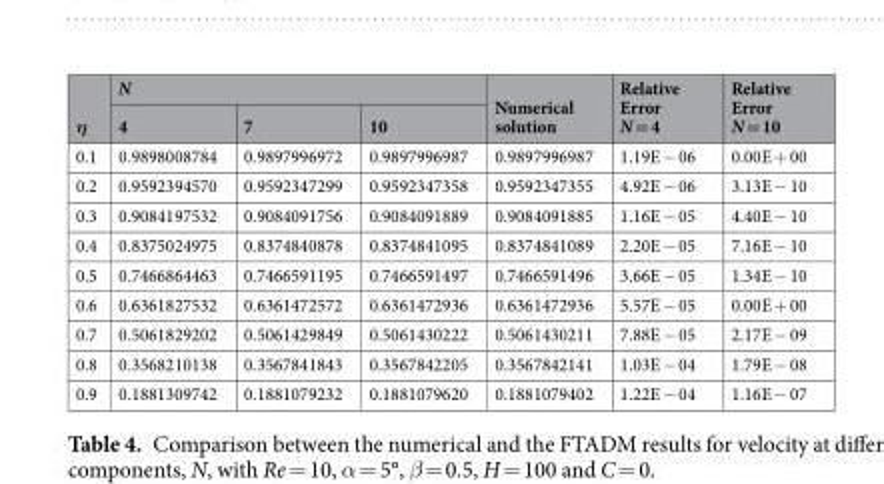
<table><thead><tr><td rowspan="2">η</td><td colspan="3">N</td><td rowspan="2">Numerical solution</td><td rowspan="2">Relative Error N = 4</td><td rowspan="2">Relative Error N = 10</td></tr><tr><td>4</td><td>7</td><td>10</td></tr></thead><tbody><tr><td>0.1</td><td>0.9898008784</td><td>0.9897996972</td><td>0.9897996987</td><td>0.9897996987</td><td>1.19E − 06</td><td>0.00E + 00</td></tr><tr><td>0.2</td><td>0.9592394570</td><td>0.9592347299</td><td>0.9592347358</td><td>0.9592347355</td><td>4.92E − 06</td><td>3.13E − 10</td></tr><tr><td>0.3</td><td>0.9084197532</td><td>0.9084091756</td><td>0.9084091889</td><td>0.9084091885</td><td>1.16E − 05</td><td>4.40E − 10</td></tr><tr><td>0.4</td><td>0.8375024975</td><td>0.8374840878</td><td>0.8374841095</td><td>0.8374841089</td><td>2.20E − 05</td><td>7.16E − 10</td></tr><tr><td>0.5</td><td>0.7466864463</td><td>0.7466591195</td><td>0.7466591497</td><td>0.7466591496</td><td>3.66E − 05</td><td>1.34E − 10</td></tr><tr><td>0.6</td><td>0.6361827532</td><td>0.6361472572</td><td>0.6361472936</td><td>0.6361472936</td><td>5.57E − 05</td><td>0.00E + 00</td></tr><tr><td>0.7</td><td>0.5061829202</td><td>0.5061429849</td><td>0.5061430222</td><td>0.5061430211</td><td>7.88E − 05</td><td>2.17E − 09</td></tr><tr><td>0.8</td><td>0.3568210138</td><td>0.3567841843</td><td>0.3567842205</td><td>0.3567842141</td><td>1.03E − 04</td><td>1.79E − 08</td></tr><tr><td>0.9</td><td>0.1881309742</td><td>0.1881079232</td><td>0.1881079620</td><td>0.1881079402</td><td>1.22E − 04</td><td>1.16E − 07</td></tr></tbody></table>